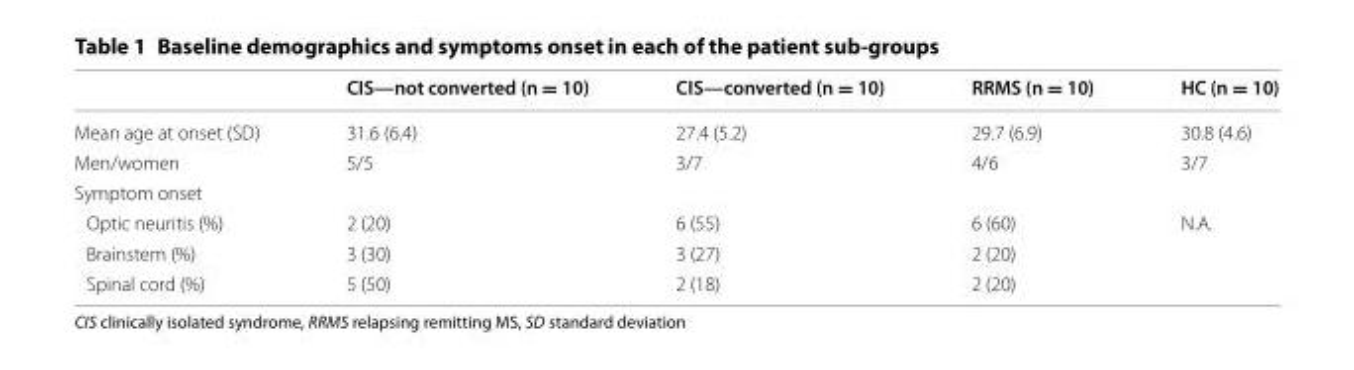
<table><thead><tr><td></td><td>CIS—not converted (n = 10)</td><td>CIS—converted (n = 10)</td><td>RRMS (n = 10)</td><td>HC (n = 10)</td></tr></thead><tbody><tr><td>Mean age at onset (SD)</td><td>31.6 (6.4)</td><td>27.4 (5.2)</td><td>29.7 (6.9)</td><td>30.8 (4.6)</td></tr><tr><td>Men/women</td><td>5/5</td><td>3/7</td><td>4/6</td><td>3/7</td></tr><tr><td colspan="5">Symptom onset</td></tr><tr><td>Optic neuritis (%)</td><td>2 (20)</td><td>6 (55)</td><td>6 (60)</td><td>N.A.</td></tr><tr><td>Brainstem (%)</td><td>3 (30)</td><td>3 (27)</td><td>2 (20)</td><td></td></tr><tr><td>Spinal cord (%)</td><td>5 (50)</td><td>2 (18)</td><td>2 (20)</td><td></td></tr></tbody></table>